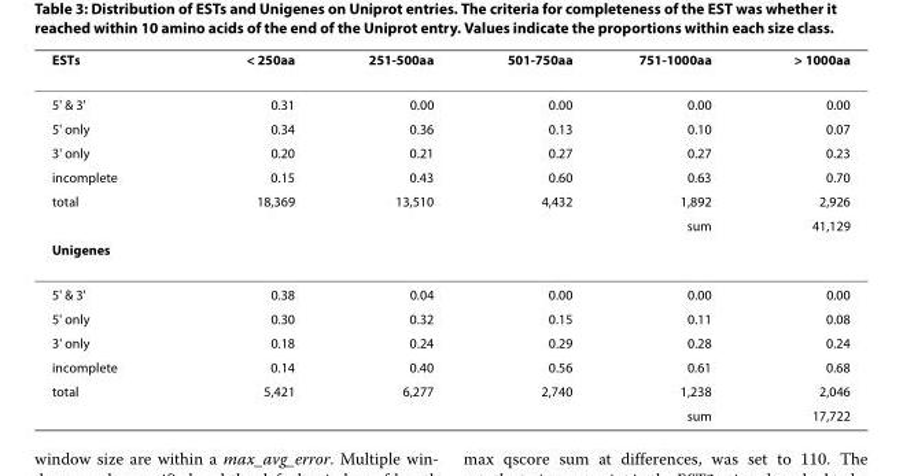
<table><thead><tr><td>ESTs</td><td>&lt; 250aa</td><td>251-500aa</td><td>501-750aa</td><td>751-1000aa</td><td>&gt; 1000aa</td></tr></thead><tbody><tr><td>5&#x27; &amp; 3&#x27;</td><td>0.31</td><td>0.00</td><td>0.00</td><td>0.00</td><td>0.00</td></tr><tr><td>5&#x27; only</td><td>0.34</td><td>0.36</td><td>0.13</td><td>0.10</td><td>0.07</td></tr><tr><td>3&#x27; only</td><td>0.20</td><td>0.21</td><td>0.27</td><td>0.27</td><td>0.23</td></tr><tr><td>incomplete</td><td>0.15</td><td>0.43</td><td>0.60</td><td>0.63</td><td>0.70</td></tr><tr><td rowspan="2">total</td><td>18,369</td><td>13,510</td><td>4,432</td><td>1,892</td><td>2,926</td></tr><tr><td></td><td></td><td></td><td>sum</td><td>41,129</td></tr><tr><td colspan="6">Unigenes</td></tr><tr><td>5&#x27; &amp; 3&#x27;</td><td>0.38</td><td>0.04</td><td>0.00</td><td>0.00</td><td>0.00</td></tr><tr><td>5&#x27; only</td><td>0.30</td><td>0.32</td><td>0.15</td><td>0.11</td><td>0.08</td></tr><tr><td>3&#x27; only</td><td>0.18</td><td>0.24</td><td>0.29</td><td>0.28</td><td>0.24</td></tr><tr><td>incomplete</td><td>0.14</td><td>0.40</td><td>0.56</td><td>0.61</td><td>0.68</td></tr><tr><td rowspan="2">total</td><td>5,421</td><td>6,277</td><td>2,740</td><td>1,238</td><td>2,046</td></tr><tr><td></td><td></td><td></td><td>sum</td><td>17,722</td></tr></tbody></table>